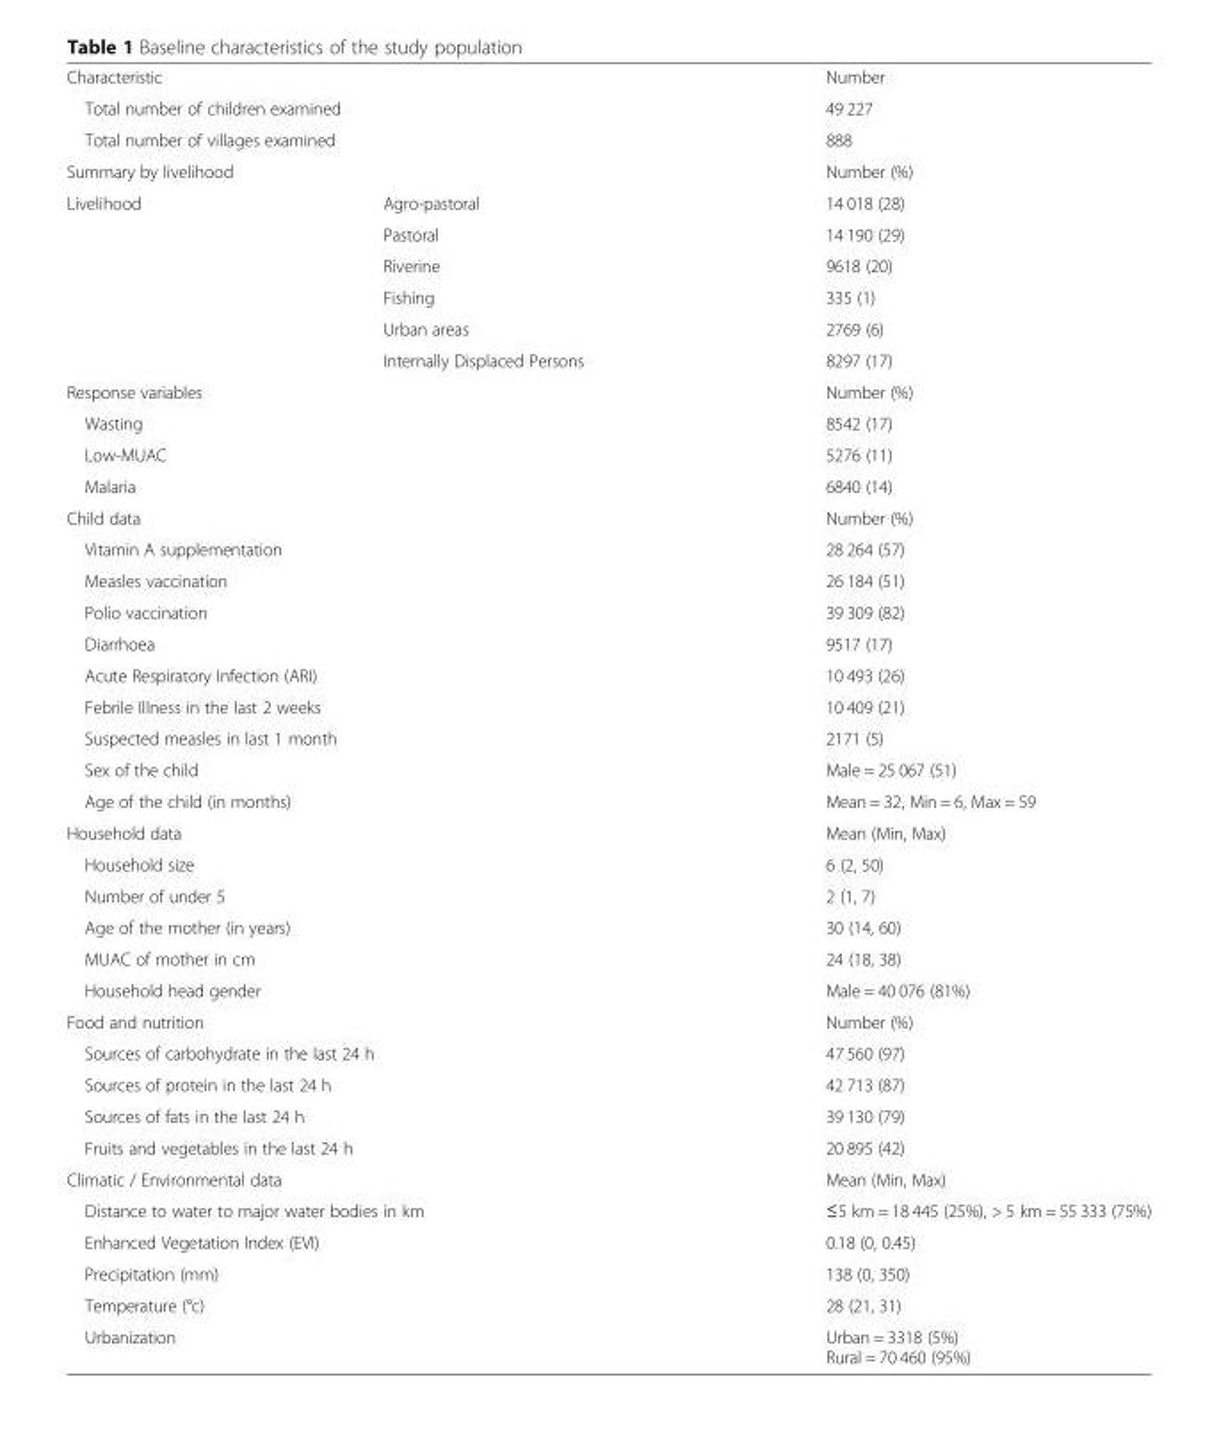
<table><tbody><tr><td colspan="2">Characteristic</td><td>Number</td></tr><tr><td colspan="2">Total number of children examined</td><td>49 227</td></tr><tr><td colspan="2">Total number of villages examined</td><td>888</td></tr><tr><td colspan="2">Summary by livelihood</td><td>Number (%)</td></tr><tr><td rowspan="6">Livelihood</td><td>Agro-pastoral</td><td>14 018 (28)</td></tr><tr><td>Pastoral</td><td>14 190 (29)</td></tr><tr><td>Riverine</td><td>9618 (20)</td></tr><tr><td>Fishing</td><td>335 (1)</td></tr><tr><td>Urban areas</td><td>2769 (6)</td></tr><tr><td>Internally Displaced Persons</td><td>8297 (17)</td></tr><tr><td colspan="2">Response variables</td><td>Number (%)</td></tr><tr><td colspan="2">Wasting</td><td>8542 (17)</td></tr><tr><td colspan="2">Low-MUAC</td><td>5276 (11)</td></tr><tr><td colspan="2">Malaria</td><td>6840 (14)</td></tr><tr><td colspan="2">Child data</td><td>Number (%)</td></tr><tr><td colspan="2">Vitamin A supplementation</td><td>28 264 (57)</td></tr><tr><td colspan="2">Measles vaccination</td><td>26 184 (51)</td></tr><tr><td colspan="2">Polio vaccination</td><td>39 309 (82)</td></tr><tr><td colspan="2">Diarrhoea</td><td>9517 (17)</td></tr><tr><td colspan="2">Acute Respiratory Infection (ARI)</td><td>10 493 (26)</td></tr><tr><td colspan="2">Febrile Illness in the last 2 weeks</td><td>10 409 (21)</td></tr><tr><td colspan="2">Suspected measles in last 1 month</td><td>2171 (5)</td></tr><tr><td colspan="2">Sex of the child</td><td>Male = 25 067 (51)</td></tr><tr><td colspan="2">Age of the child (in months)</td><td>Mean = 32, Min = 6, Max = 59</td></tr><tr><td colspan="2">Household data</td><td>Mean (Min, Max)</td></tr><tr><td colspan="2">Household size</td><td>6 (2, 50)</td></tr><tr><td colspan="2">Number of under 5</td><td>2 (1, 7)</td></tr><tr><td colspan="2">Age of the mother (in years)</td><td>30 (14, 60)</td></tr><tr><td colspan="2">MUAC of mother in cm</td><td>24 (18, 38)</td></tr><tr><td colspan="2">Household head gender</td><td>Male = 40 076 (81%)</td></tr><tr><td colspan="2">Food and nutrition</td><td>Number (%)</td></tr><tr><td colspan="2">Sources of carbohydrate in the last 24 h</td><td>47 560 (97)</td></tr><tr><td colspan="2">Sources of protein in the last 24 h</td><td>42 713 (87)</td></tr><tr><td colspan="2">Sources of fats in the last 24 h</td><td>39 130 (79)</td></tr><tr><td colspan="2">Fruits and vegetables in the last 24 h</td><td>20 895 (42)</td></tr><tr><td colspan="2">Climatic / Environmental data</td><td>Mean (Min, Max)</td></tr><tr><td colspan="2">Distance to water to major water bodies in km</td><td>≤5 km = 18 445 (25%), &gt; 5 km = 55 333 (75%)</td></tr><tr><td colspan="2">Enhanced Vegetation Index (EVI)</td><td>0.18 (0, 0.45)</td></tr><tr><td colspan="2">Precipitation (mm)</td><td>138 (0, 350)</td></tr><tr><td colspan="2">Temperature (°c)</td><td>28 (21, 31)</td></tr><tr><td colspan="2">Urbanization</td><td>Urban = 3318 (5%) Rural = 70 460 (95%)</td></tr></tbody></table>